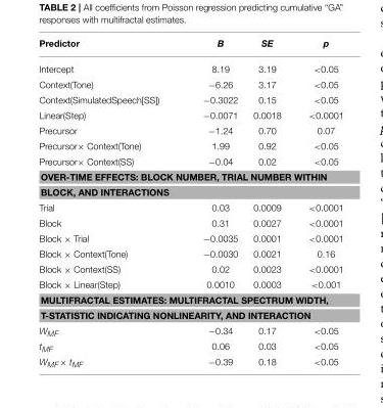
<table><thead><tr><td>Predictor</td><td>B</td><td>SE</td><td>p</td></tr></thead><tbody><tr><td>Intercept</td><td>8.19</td><td>3.19</td><td>&lt;0.05</td></tr><tr><td>Context(Tone)</td><td>−6.26</td><td>3.17</td><td>&lt;0.05</td></tr><tr><td>Context(SimulatedSpeech[SS])</td><td>−0.3022</td><td>0.15</td><td>&lt;0.05</td></tr><tr><td>Linear(Step)</td><td>−0.0071</td><td>0.0018</td><td>&lt;0.0001</td></tr><tr><td>Precursor</td><td>−1.24</td><td>0.70</td><td>0.07</td></tr><tr><td>Precursor× Context(Tone)</td><td>1.99</td><td>0.92</td><td>&lt;0.05</td></tr><tr><td>Precursor× Context(SS)</td><td>−0.04</td><td>0.02</td><td>&lt;0.05</td></tr><tr><td colspan="4">OVER-TIME EFFECTS: BLOCK NUMBER, TRIAL NUMBER WITHIN BLOCK, AND INTERACTIONS</td></tr><tr><td>Trial</td><td>0.03</td><td>0.0009</td><td>&lt;0.0001</td></tr><tr><td>Block</td><td>0.31</td><td>0.0027</td><td>&lt;0.0001</td></tr><tr><td>Block × Trial</td><td>−0.0035</td><td>0.0001</td><td>&lt;0.0001</td></tr><tr><td>Block × Context(Tone)</td><td>−0.0030</td><td>0.0021</td><td>0.16</td></tr><tr><td>Block × Context(SS)</td><td>0.02</td><td>0.0023</td><td>&lt;0.0001</td></tr><tr><td>Block × Linear(Step)</td><td>0.0010</td><td>0.0003</td><td>&lt;0.001</td></tr><tr><td colspan="4">MULTIFRACTAL ESTIMATES: MULTIFRACTAL SPECTRUM WIDTH, T-STATISTIC INDICATING NONLINEARITY, AND INTERACTION</td></tr><tr><td>WMF</td><td>−0.34</td><td>0.17</td><td>&lt;0.05</td></tr><tr><td>tMF</td><td>0.06</td><td>0.03</td><td>&lt;0.05</td></tr><tr><td>WMF× tMF</td><td>−0.39</td><td>0.18</td><td>&lt;0.05</td></tr></tbody></table>